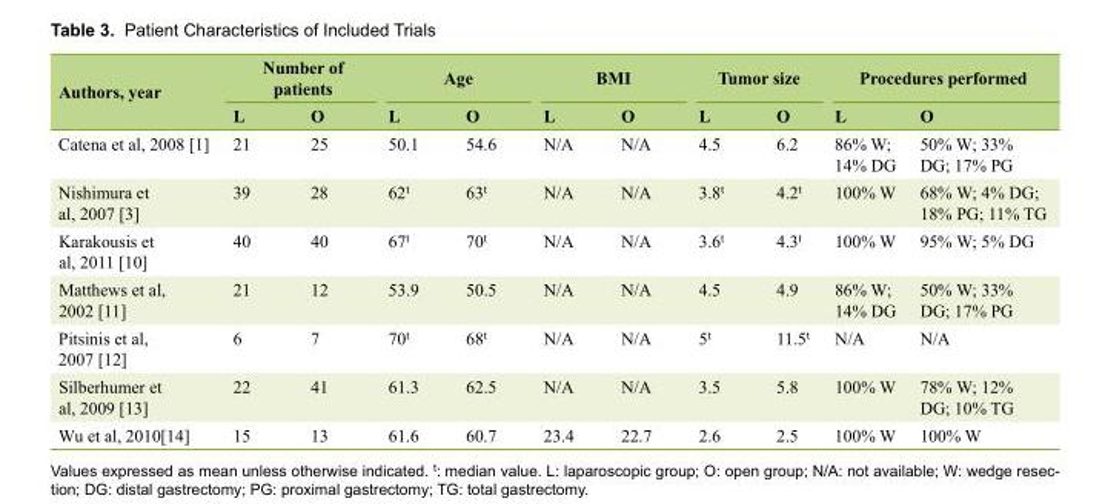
<table><thead><tr><td rowspan="2">Authors, year</td><td colspan="2">Number of patients</td><td colspan="2">Age</td><td colspan="2">BMI</td><td colspan="2">Tumor size</td><td colspan="2">Procedures performed</td></tr><tr><td>L</td><td>O</td><td>L</td><td>O</td><td>L</td><td>O</td><td>L</td><td>O</td><td>L</td><td>O</td></tr></thead><tbody><tr><td>Catena et al, 2008 [1]</td><td>21</td><td>25</td><td>50.1</td><td>54.6</td><td>N/A</td><td>N/A</td><td>4.5</td><td>6.2</td><td>86% W; 14% DG</td><td>50% W; 33% DG; 17% PG</td></tr><tr><td>Nishimura et al, 2007 [3]</td><td>39</td><td>28</td><td>62<sup>t</sup></td><td>63<sup>t</sup></td><td>N/A</td><td>N/A</td><td>3.8<sup>t</sup></td><td>4.2<sup>t</sup></td><td>100% W</td><td>68% W; 4% DG; 18% PG; 11% TG</td></tr><tr><td>Karakousis et al, 2011 [10]</td><td>40</td><td>40</td><td>67<sup>t</sup></td><td>70<sup>t</sup></td><td>N/A</td><td>N/A</td><td>3.6<sup>t</sup></td><td>4.3<sup>t</sup></td><td>100% W</td><td>95% W; 5% DG</td></tr><tr><td>Matthews et al, 2002 [11]</td><td>21</td><td>12</td><td>53.9</td><td>50.5</td><td>N/A</td><td>N/A</td><td>4.5</td><td>4.9</td><td>86% W; 14% DG</td><td>50% W; 33% DG; 17% PG</td></tr><tr><td>Pitsinis et al, 2007 [12]</td><td>6</td><td>7</td><td>70<sup>t</sup></td><td>68<sup>t</sup></td><td>N/A</td><td>N/A</td><td>5<sup>t</sup></td><td>11.5<sup>t</sup></td><td>N/A</td><td>N/A</td></tr><tr><td>Silberhumer et al, 2009 [13]</td><td>22</td><td>41</td><td>61.3</td><td>62.5</td><td>N/A</td><td>N/A</td><td>3.5</td><td>5.8</td><td>100% W</td><td>78% W; 12% DG; 10% TG</td></tr><tr><td>Wu et al, 2010[14]</td><td>15</td><td>13</td><td>61.6</td><td>60.7</td><td>23.4</td><td>22.7</td><td>2.6</td><td>2.5</td><td>100% W</td><td>100% W</td></tr></tbody></table>